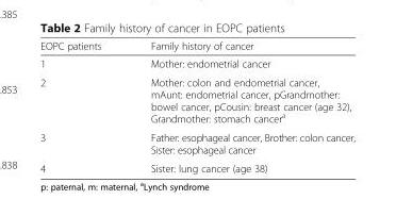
<table><thead><tr><td>EOPC patients</td><td>Family history of cancer</td></tr></thead><tbody><tr><td>1</td><td>Mother: endometrial cancer</td></tr><tr><td>2</td><td>Mother: colon and endometrial cancer, mAunt: endometrial cancer, pGrandmother: bowel cancer, pCousin: breast cancer (age 32), Grandmother: stomach cancer<sup>a</sup></td></tr><tr><td>3</td><td>Father: esophageal cancer, Brother: colon cancer, Sister: esophageal cancer</td></tr><tr><td>4</td><td>Sister: lung cancer (age 38)</td></tr></tbody></table>